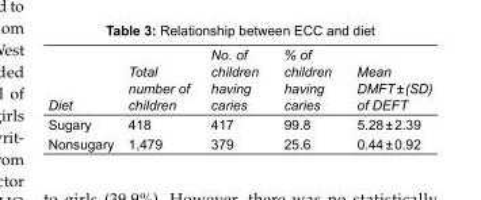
<table><tbody><tr><td>Diet</td><td>Total number of children</td><td>No. of children having caries</td><td>% of children having caries</td><td>Mean DMFT ± (SD) of DEFT</td></tr><tr><td>Sugary</td><td>418</td><td>417</td><td>99.8</td><td>5.28 ± 2.39</td></tr><tr><td>Nonsugary</td><td>1,479</td><td>379</td><td>25.6</td><td>0.44 ± 0.92</td></tr></tbody></table>